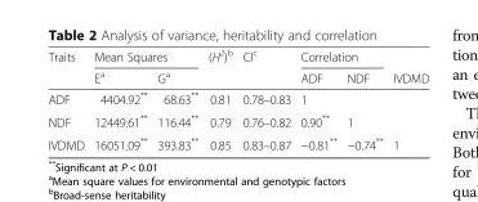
<table><thead><tr><td rowspan="2">Traits</td><td colspan="2">Mean Squares</td><td rowspan="2">(H<sup>2</sup>)<sup>b</sup></td><td rowspan="2">CI<sup>c</sup></td><td colspan="2">Correlation</td><td rowspan="2">IVDMD</td></tr><tr><td>E<sup>a</sup></td><td>G<sup>a</sup></td><td>ADF</td><td>NDF</td></tr></thead><tbody><tr><td>ADF</td><td>4404.92**</td><td>68.63**</td><td>0.81</td><td>0.78–0.83</td><td>1</td><td></td><td></td></tr><tr><td>NDF</td><td>12449.61**</td><td>116.44**</td><td>0.79</td><td>0.76–0.82</td><td>0.90**</td><td>1</td><td></td></tr><tr><td>IVDMD</td><td>16051.09**</td><td>393.83**</td><td>0.85</td><td>0.83–0.87</td><td>−0.81**</td><td>−0.74**</td><td>1</td></tr></tbody></table>